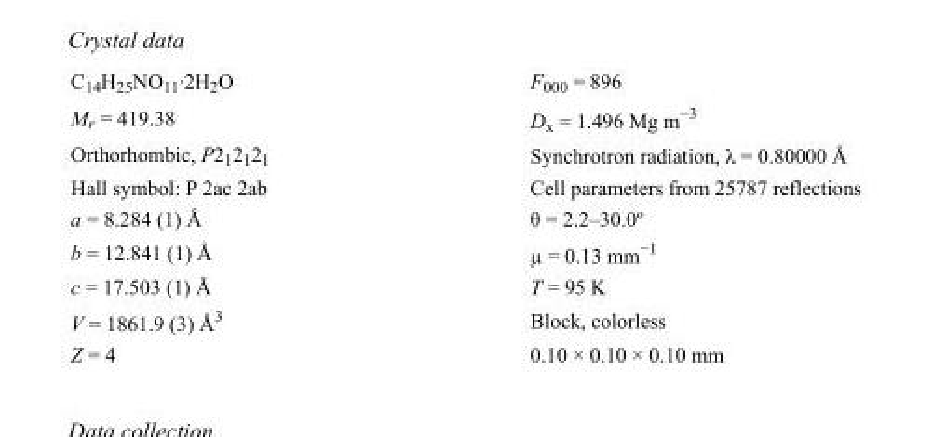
<table><tbody><tr><td>C<sub>14</sub>H<sub>25</sub>NO<sub>11</sub>·2H<sub>2</sub>O</td><td>F000 = 896</td></tr><tr><td>M<sub>r</sub> = 419.38</td><td>D<sub>x</sub> = 1.496 Mg m<sup>−3</sup></td></tr><tr><td>Orthorhombic, P2<sub>1</sub>2<sub>1</sub>2<sub>1</sub></td><td>Synchrotron radiation, λ = 0.80000 Å</td></tr><tr><td>Hall symbol: P 2ac 2ab</td><td>Cell parameters from 25787 reflections</td></tr><tr><td>a = 8.284 (1) Å</td><td>θ = 2.2–30.0º</td></tr><tr><td>b = 12.841 (1) Å</td><td>µ = 0.13 mm<sup>−1</sup></td></tr><tr><td>c = 17.503 (1) Å</td><td>T = 95 K</td></tr><tr><td>V = 1861.9 (3) Å<sup>3</sup></td><td>Block, colorless</td></tr><tr><td>Z = 4</td><td>0.10 × 0.10 × 0.10 mm</td></tr></tbody></table>